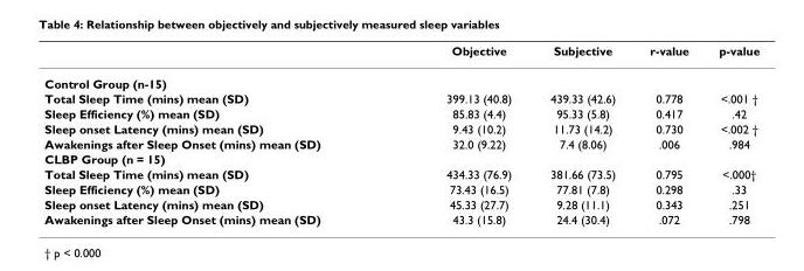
<table><thead><tr><td></td><td>Objective</td><td>Subjective</td><td>r-value</td><td>p-value</td></tr></thead><tbody><tr><td colspan="5">Control Group (n-15)</td></tr><tr><td>Total Sleep Time (mins) mean (SD)</td><td>399.13 (40.8)</td><td>439.33 (42.6)</td><td>0.778</td><td>&lt;.001 †</td></tr><tr><td>Sleep Efficiency (%) mean (SD)</td><td>85.83 (4.4)</td><td>95.33 (5.8)</td><td>0.417</td><td>.42</td></tr><tr><td>Sleep onset Latency (mins) mean (SD)</td><td>9.43 (10.2)</td><td>11.73 (14.2)</td><td>0.730</td><td>&lt;.002 †</td></tr><tr><td>Awakenings after Sleep Onset (mins) mean (SD)</td><td>32.0 (9.22)</td><td>7.4 (8.06)</td><td>.006</td><td>.984</td></tr><tr><td colspan="5">CLBP Group (n = 15)</td></tr><tr><td>Total Sleep Time (mins) mean (SD)</td><td>434.33 (76.9)</td><td>381.66 (73.5)</td><td>0.795</td><td>&lt;.000†</td></tr><tr><td>Sleep Efficiency (%) mean (SD)</td><td>73.43 (16.5)</td><td>77.81 (7.8)</td><td>0.298</td><td>.33</td></tr><tr><td>Sleep onset Latency (mins) mean (SD)</td><td>45.33 (27.7)</td><td>9.28 (11.1)</td><td>0.343</td><td>.251</td></tr><tr><td>Awakenings after Sleep Onset (mins) mean (SD)</td><td>43.3 (15.8)</td><td>24.4 (30.4)</td><td>.072</td><td>.798</td></tr></tbody></table>